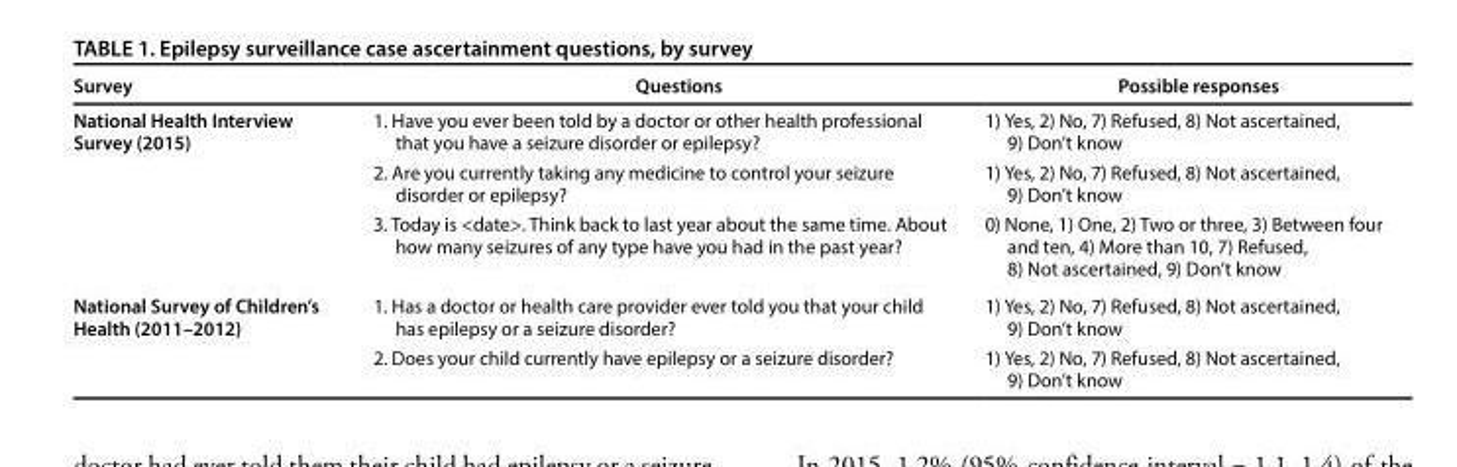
<table><thead><tr><td>Survey</td><td>Questions</td><td>Possible responses</td></tr></thead><tbody><tr><td rowspan="3">National Health Interview Survey (2015)</td><td>1. Have you ever been told by a doctor or other health professional that you have a seizure disorder or epilepsy?</td><td>1) Yes, 2) No, 7) Refused, 8) Not ascertained, 9) Don’t know</td></tr><tr><td>2. Are you currently taking any medicine to control your seizure disorder or epilepsy?</td><td>1) Yes, 2) No, 7) Refused, 8) Not ascertained, 9) Don’t know</td></tr><tr><td>3. Today is &lt;date&gt;. Think back to last year about the same time. About how many seizures of any type have you had in the past year?</td><td>0) None, 1) One, 2) Two or three, 3) Between four and ten, 4) More than 10, 7) Refused, 8) Not ascertained, 9) Don’t know</td></tr><tr><td rowspan="2">National Survey of Children’s Health (2011–2012)</td><td>1. Has a doctor or health care provider ever told you that your child has epilepsy or a seizure disorder?</td><td>1) Yes, 2) No, 7) Refused, 8) Not ascertained, 9) Don’t know</td></tr><tr><td>2. Does your child currently have epilepsy or a seizure disorder?</td><td>1) Yes, 2) No, 7) Refused, 8) Not ascertained, 9) Don’t know</td></tr></tbody></table>